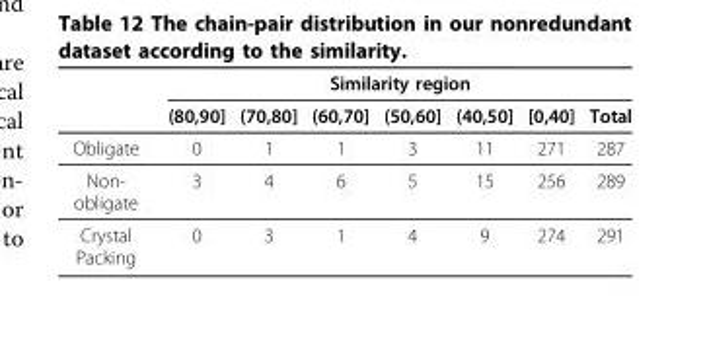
<table><thead><tr><td rowspan="2"></td><td colspan="7">Similarity region</td></tr><tr><td>(80,90]</td><td>(70,80]</td><td>(60,70]</td><td>(50,60]</td><td>(40,50]</td><td>[0,40]</td><td>Total</td></tr></thead><tbody><tr><td>Obligate</td><td>0</td><td>1</td><td>1</td><td>3</td><td>11</td><td>271</td><td>287</td></tr><tr><td>Non- obligate</td><td>3</td><td>4</td><td>6</td><td>5</td><td>15</td><td>256</td><td>289</td></tr><tr><td>Crystal Packing</td><td>0</td><td>3</td><td>1</td><td>4</td><td>9</td><td>274</td><td>291</td></tr></tbody></table>